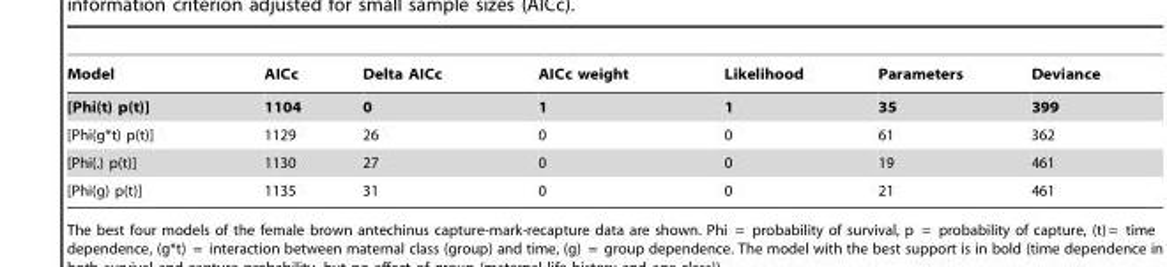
<table><thead><tr><td>Model</td><td>AICc</td><td>Delta AICc</td><td>AICc weight</td><td>Likelihood</td><td>Parameters</td><td>Deviance</td></tr></thead><tbody><tr><td>[Phi(t) p(t)]</td><td>1104</td><td>0</td><td>1</td><td>1</td><td>35</td><td>399</td></tr><tr><td>[Phi(g*t) p(t)]</td><td>1129</td><td>26</td><td>0</td><td>0</td><td>61</td><td>362</td></tr><tr><td>[Phi(.) p(t)]</td><td>1130</td><td>27</td><td>0</td><td>0</td><td>19</td><td>461</td></tr><tr><td>[Phi(g) p(t)]</td><td>1135</td><td>31</td><td>0</td><td>0</td><td>21</td><td>461</td></tr></tbody></table>